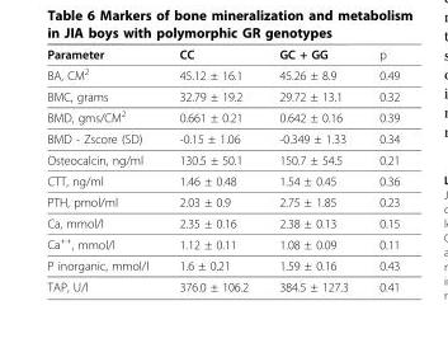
<table><thead><tr><td>Parameter</td><td>CC</td><td>GC + GG</td><td>p</td></tr></thead><tbody><tr><td>BA, CM<sup>2</sup></td><td>45.12 ± 16.1</td><td>45.26 ± 8.9</td><td>0.49</td></tr><tr><td>BMC, grams</td><td>32.79 ± 19.2</td><td>29.72 ± 13.1</td><td>0.32</td></tr><tr><td>BMD, gms/CM<sup>2</sup></td><td>0.661 ± 0.21</td><td>0.642 ± 0.16</td><td>0.39</td></tr><tr><td>BMD - Zscore (SD)</td><td>-0.15 ± 1.06</td><td>-0.349 ± 1.33</td><td>0.34</td></tr><tr><td>Osteocalcin, ng/ml</td><td>130.5 ± 50.1</td><td>150.7 ± 54.5</td><td>0.21</td></tr><tr><td>CTT, ng/ml</td><td>1.46 ± 0.48</td><td>1.54 ± 0.45</td><td>0.36</td></tr><tr><td>PTH, pmol/ml</td><td>2.03 ± 0.9</td><td>2.75 ± 1.85</td><td>0.23</td></tr><tr><td>Ca, mmol/l</td><td>2.35 ± 0.16</td><td>2.38 ± 0.13</td><td>0.15</td></tr><tr><td>Ca<sup>++</sup>, mmol/l</td><td>1.12 ± 0.11</td><td>1.08 ± 0.09</td><td>0.11</td></tr><tr><td>P inorganic, mmol/l</td><td>1.6 ± 0.21</td><td>1.59 ± 0.16</td><td>0.43</td></tr><tr><td>TAP, U/l</td><td>376.0 ± 106.2</td><td>384.5 ± 127.3</td><td>0.41</td></tr></tbody></table>